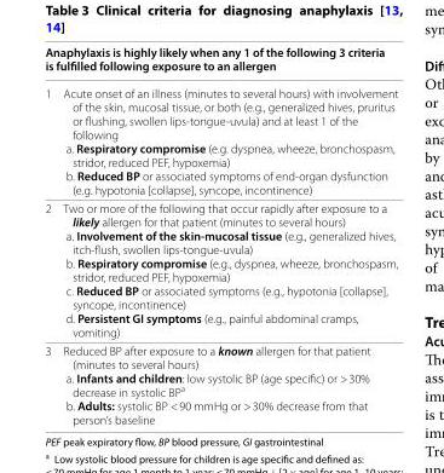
<table><thead><tr><td colspan="2">Anaphylaxis is highly likely when any 1 of the following 3 criteria is fulfilled following exposure to an allergen</td></tr><tr><td>1</td><td>Acute onset of an illness (minutes to several hours) with involvement of the skin, mucosal tissue, or both (e.g., generalized hives, pruritus or flushing, swollen lips-tongue-uvula) and at least 1 of the following a. Respiratory compromise (e.g. dyspnea, wheeze, bronchospasm, stridor, reduced PEF, hypoxemia) b. Reduced BP or associated symptoms of end-organ dysfunction (e.g. hypotonia [collapse], syncope, incontinence)</td></tr></thead><tbody><tr><td>2</td><td>Two or more of the following that occur rapidly after exposure to a likely allergen for that patient (minutes to several hours) a. Involvement of the skin-mucosal tissue (e.g., generalized hives, itch-flush, swollen lips-tongue-uvula) b. Respiratory compromise (e.g., dyspnea, wheeze, bronchospasm, stridor, reduced PEF, hypoxemia) c. Reduced BP or associated symptoms (e.g., hypotonia [collapse], syncope, incontinence) d. Persistent GI symptoms (e.g., painful abdominal cramps, vomiting)</td></tr><tr><td>3</td><td>Reduced BP after exposure to a known allergen for that patient (minutes to several hours) a. Infants and children: low systolic BP (age specific) or &gt; 30% decrease in systolic BP<sup>a</sup> b. Adults: systolic BP &lt; 90 mmHg or &gt; 30% decrease from that person’s baseline</td></tr></tbody></table>